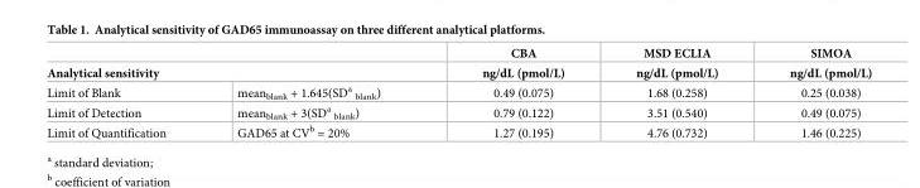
<table><thead><tr><td></td><td></td><td rowspan="2">CBA ng/dL (pmol/L)</td><td rowspan="2">MSD ECLIA ng/dL (pmol/L)</td><td rowspan="2">SIMOA ng/dL (pmol/L)</td></tr><tr><td colspan="2">Analytical sensitivity</td></tr></thead><tbody><tr><td>Limit of Blank</td><td>mean<sub>blank</sub> + 1.645(SD<sup>a</sup> <sub>blank</sub>)</td><td>0.49 (0.075)</td><td>1.68 (0.258)</td><td>0.25 (0.038)</td></tr><tr><td>Limit of Detection</td><td>mean<sub>blank</sub> + 3(SD<sup>a</sup> <sub>blank</sub>)</td><td>0.79 (0.122)</td><td>3.51 (0.540)</td><td>0.49 (0.075)</td></tr><tr><td>Limit of Quantification</td><td>GAD65 at CV<sup>b</sup> = 20%</td><td>1.27 (0.195)</td><td>4.76 (0.732)</td><td>1.46 (0.225)</td></tr></tbody></table>